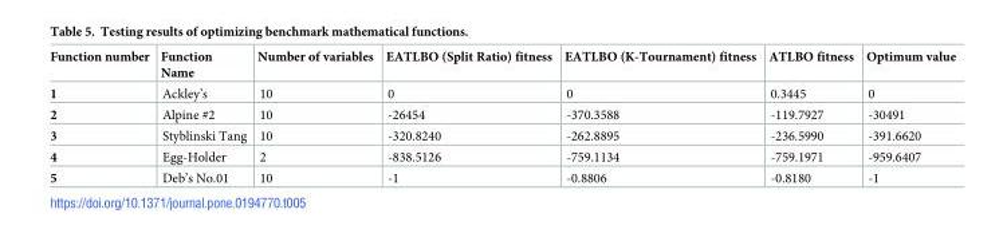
<table><thead><tr><td>Function number</td><td>Function Name</td><td>Number of variables</td><td>EATLBO (Split Ratio) fitness</td><td>EATLBO (K-Tournament) fitness</td><td>ATLBO fitness</td><td>Optimum value</td></tr></thead><tbody><tr><td>1</td><td>Ackley’s</td><td>10</td><td>0</td><td>0</td><td>0.3445</td><td>0</td></tr><tr><td>2</td><td>Alpine #2</td><td>10</td><td>-26454</td><td>-370.3588</td><td>-119.7927</td><td>-30491</td></tr><tr><td>3</td><td>Styblinski Tang</td><td>10</td><td>-320.8240</td><td>-262.8895</td><td>-236.5990</td><td>-391.6620</td></tr><tr><td>4</td><td>Egg-Holder</td><td>2</td><td>-838.5126</td><td>-759.1134</td><td>-759.1971</td><td>-959.6407</td></tr><tr><td>5</td><td>Deb’s No.01</td><td>10</td><td>-1</td><td>-0.8806</td><td>-0.8180</td><td>-1</td></tr></tbody></table>